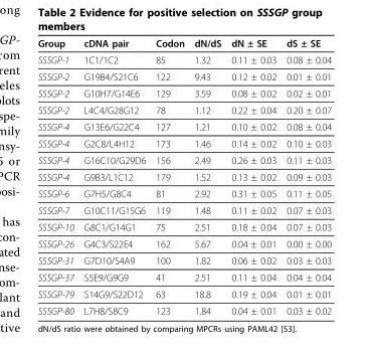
<table><thead><tr><td>Group</td><td>cDNA pair</td><td>Codon</td><td>dN/dS</td><td>dN ± SE</td><td>dS ± SE</td></tr></thead><tbody><tr><td>SSSGP-1</td><td>1C1/1C2</td><td>85</td><td>1.32</td><td>0.11 ± 0.03</td><td>0.08 ± 0.04</td></tr><tr><td>SSSGP-2</td><td>G19B4/S21C6</td><td>122</td><td>9.43</td><td>0.12 ± 0.02</td><td>0.01 ± 0.01</td></tr><tr><td>SSSGP-2</td><td>G10H7/G14E6</td><td>129</td><td>3.59</td><td>0.08 ± 0.02</td><td>0.02 ± 0.01</td></tr><tr><td>SSSGP-2</td><td>L4C4/G28G12</td><td>78</td><td>1.12</td><td>0.22 ± 0.04</td><td>0.20 ± 0.07</td></tr><tr><td>SSSGP-4</td><td>G13E6/G22C4</td><td>127</td><td>1.21</td><td>0.10 ± 0.02</td><td>0.08 ± 0.04</td></tr><tr><td>SSSGP-4</td><td>G2C8/L4H12</td><td>173</td><td>1.46</td><td>0.14 ± 0.02</td><td>0.10 ± 0.03</td></tr><tr><td>SSSGP-4</td><td>G16C10/G29D6</td><td>156</td><td>2.49</td><td>0.26 ± 0.03</td><td>0.11 ± 0.03</td></tr><tr><td>SSSGP-4</td><td>G9B3/L1C12</td><td>179</td><td>1.52</td><td>0.13 ± 0.02</td><td>0.09 ± 0.03</td></tr><tr><td>SSSGP-6</td><td>G7H5/G8C4</td><td>81</td><td>2.92</td><td>0.31 ± 0.05</td><td>0.11 ± 0.05</td></tr><tr><td>SSSGP-7</td><td>G10C11/G15G6</td><td>119</td><td>1.48</td><td>0.11 ± 0.02</td><td>0.07 ± 0.03</td></tr><tr><td>SSSGP-10</td><td>G8C1/G14G1</td><td>75</td><td>2.51</td><td>0.18 ± 0.04</td><td>0.07 ± 0.03</td></tr><tr><td>SSSGP-26</td><td>G4C3/S22E4</td><td>162</td><td>5.67</td><td>0.04 ± 0.01</td><td>0.00 ± 0.00</td></tr><tr><td>SSSGP-31</td><td>G7D10/S4A9</td><td>100</td><td>1.82</td><td>0.06 ± 0.02</td><td>0.03 ± 0.03</td></tr><tr><td>SSSGP-37</td><td>S5E9/G9G9</td><td>41</td><td>2.51</td><td>0.11 ± 0.04</td><td>0.04 ± 0.04</td></tr><tr><td>SSSGP-79</td><td>S14G9/S22D12</td><td>63</td><td>18.8</td><td>0.19 ± 0.04</td><td>0.01 ± 0.01</td></tr><tr><td>SSSGP-80</td><td>L7H8/S8C9</td><td>123</td><td>1.84</td><td>0.04 ± 0.01</td><td>0.03 ± 0.02</td></tr></tbody></table>